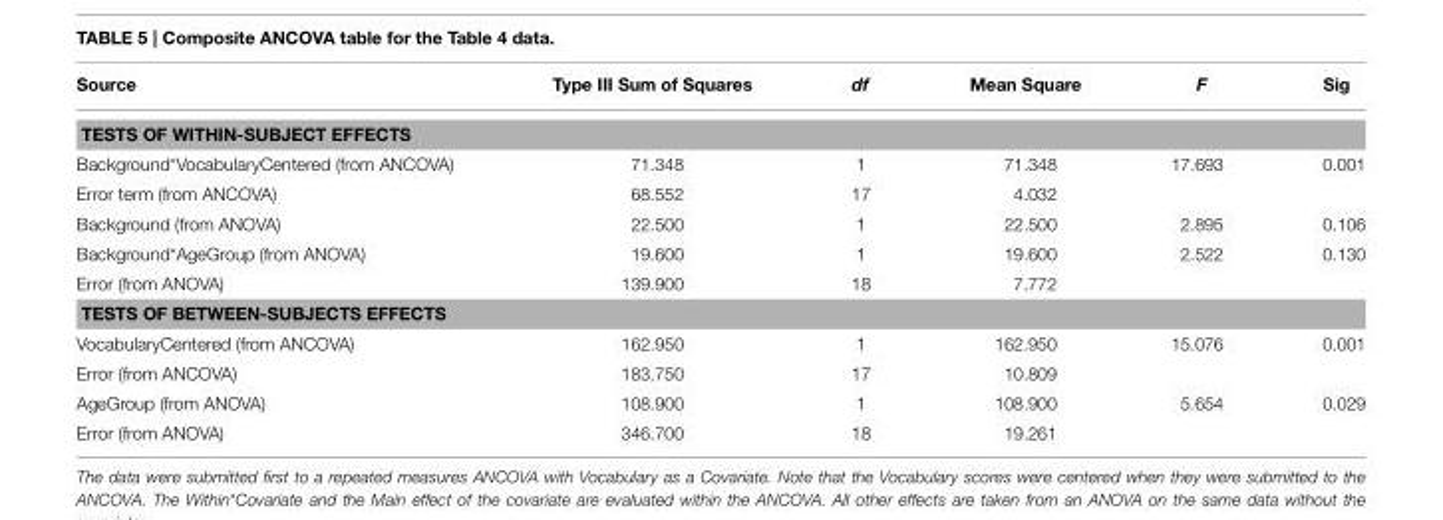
<table><thead><tr><td>Source</td><td>Type III Sum of Squares</td><td>df</td><td>Mean Square</td><td>F</td><td>Sig</td></tr></thead><tbody><tr><td colspan="6">TESTS OF WITHIN-SUBJECT EFFECTS</td></tr><tr><td>Background*VocabularyCentered (from ANCOVA)</td><td>71.348</td><td>1</td><td>71.348</td><td>17.693</td><td>0.001</td></tr><tr><td>Error term (from ANCOVA)</td><td>68.552</td><td>17</td><td>4.032</td><td></td><td></td></tr><tr><td>Background (from ANOVA)</td><td>22.500</td><td>1</td><td>22.500</td><td>2.895</td><td>0.106</td></tr><tr><td>Background*AgeGroup (from ANOVA)</td><td>19.600</td><td>1</td><td>19.600</td><td>2.522</td><td>0.130</td></tr><tr><td>Error (from ANOVA)</td><td>139.900</td><td>18</td><td>7.772</td><td></td><td></td></tr><tr><td colspan="6">TESTS OF BETWEEN-SUBJECTS EFFECTS</td></tr><tr><td>VocabularyCentered (from ANCOVA)</td><td>162.950</td><td>1</td><td>162.950</td><td>15.076</td><td>0.001</td></tr><tr><td>Error (from ANCOVA)</td><td>183.750</td><td>17</td><td>10.809</td><td></td><td></td></tr><tr><td>AgeGroup (from ANOVA)</td><td>108.900</td><td>1</td><td>108.900</td><td>5.654</td><td>0.029</td></tr><tr><td>Error (from ANOVA)</td><td>346.700</td><td>18</td><td>19.261</td><td></td><td></td></tr></tbody></table>